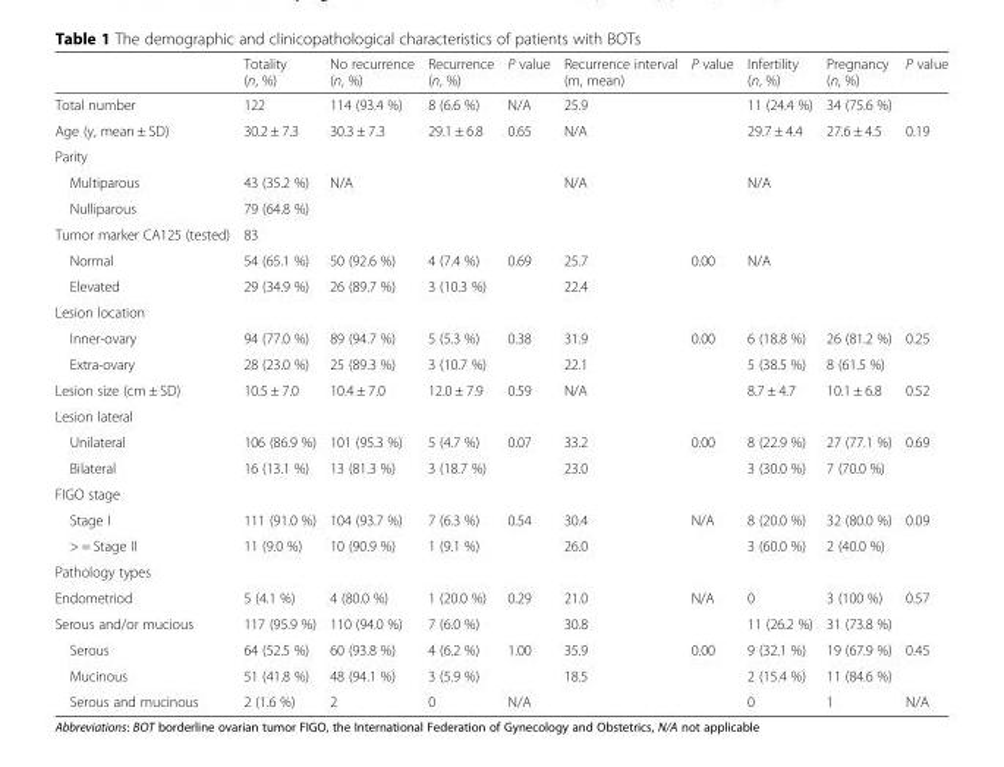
<table><thead><tr><td></td><td>Totality (n, %)</td><td>No recurrence (n, %)</td><td>Recurrence (n, %)</td><td>P value</td><td>Recurrence interval (m, mean)</td><td>P value</td><td>Infertility (n, %)</td><td>Pregnancy (n, %)</td><td>P value</td></tr></thead><tbody><tr><td>Total number</td><td>122</td><td>114 (93.4 %)</td><td>8 (6.6 %)</td><td>N/A</td><td>25.9</td><td></td><td>11 (24.4 %)</td><td>34 (75.6 %)</td><td></td></tr><tr><td>Age (y, mean ± SD)</td><td>30.2 ± 7.3</td><td>30.3 ± 7.3</td><td>29.1 ± 6.8</td><td>0.65</td><td>N/A</td><td></td><td>29.7 ± 4.4</td><td>27.6 ± 4.5</td><td>0.19</td></tr><tr><td colspan="10">Parity</td></tr><tr><td>Multiparous</td><td>43 (35.2 %)</td><td rowspan="2" colspan="3">N/A</td><td rowspan="2" colspan="2">N/A</td><td rowspan="2" colspan="3">N/A</td></tr><tr><td>Nulliparous</td><td>79 (64.8 %)</td></tr><tr><td>Tumor marker CA125 (tested)</td><td>83</td><td></td><td></td><td></td><td></td><td></td><td></td><td></td><td></td></tr><tr><td>Normal</td><td>54 (65.1 %)</td><td>50 (92.6 %)</td><td>4 (7.4 %)</td><td rowspan="2">0.69</td><td>25.7</td><td rowspan="2">0.00</td><td>N/A</td><td></td><td></td></tr><tr><td>Elevated</td><td>29 (34.9 %)</td><td>26 (89.7 %)</td><td>3 (10.3 %)</td><td>22.4</td><td></td><td></td><td></td></tr><tr><td colspan="10">Lesion location</td></tr><tr><td>Inner-ovary</td><td>94 (77.0 %)</td><td>89 (94.7 %)</td><td>5 (5.3 %)</td><td rowspan="2">0.38</td><td>31.9</td><td rowspan="2">0.00</td><td>6 (18.8 %)</td><td>26 (81.2 %)</td><td rowspan="2">0.25</td></tr><tr><td>Extra-ovary</td><td>28 (23.0 %)</td><td>25 (89.3 %)</td><td>3 (10.7 %)</td><td>22.1</td><td>5 (38.5 %)</td><td>8 (61.5 %)</td></tr><tr><td>Lesion size (cm ± SD)</td><td>10.5 ± 7.0</td><td>10.4 ± 7.0</td><td>12.0 ± 7.9</td><td>0.59</td><td>N/A</td><td></td><td>8.7 ± 4.7</td><td>10.1 ± 6.8</td><td>0.52</td></tr><tr><td colspan="10">Lesion lateral</td></tr><tr><td>Unilateral</td><td>106 (86.9 %)</td><td>101 (95.3 %)</td><td>5 (4.7 %)</td><td rowspan="2">0.07</td><td>33.2</td><td rowspan="2">0.00</td><td>8 (22.9 %)</td><td>27 (77.1 %)</td><td rowspan="2">0.69</td></tr><tr><td>Bilateral</td><td>16 (13.1 %)</td><td>13 (81.3 %)</td><td>3 (18.7 %)</td><td>23.0</td><td>3 (30.0 %)</td><td>7 (70.0 %)</td></tr><tr><td colspan="10">FIGO stage</td></tr><tr><td>Stage I</td><td>111 (91.0 %)</td><td>104 (93.7 %)</td><td>7 (6.3 %)</td><td rowspan="2">0.54</td><td>30.4</td><td rowspan="2">N/A</td><td>8 (20.0 %)</td><td>32 (80.0 %)</td><td rowspan="2">0.09</td></tr><tr><td>&gt; = Stage II</td><td>11 (9.0 %)</td><td>10 (90.9 %)</td><td>1 (9.1 %)</td><td>26.0</td><td>3 (60.0 %)</td><td>2 (40.0 %)</td></tr><tr><td colspan="10">Pathology types</td></tr><tr><td>Endometriod</td><td>5 (4.1 %)</td><td>4 (80.0 %)</td><td>1 (20.0 %)</td><td>0.29</td><td>21.0</td><td>N/A</td><td>0</td><td>3 (100 %)</td><td>0.57</td></tr><tr><td>Serous and/or mucious</td><td>117 (95.9 %)</td><td>110 (94.0 %)</td><td>7 (6.0 %)</td><td></td><td>30.8</td><td></td><td>11 (26.2 %)</td><td>31 (73.8 %)</td><td></td></tr><tr><td>Serous</td><td>64 (52.5 %)</td><td>60 (93.8 %)</td><td>4 (6.2 %)</td><td rowspan="2">1.00</td><td>35.9</td><td rowspan="2">0.00</td><td>9 (32.1 %)</td><td>19 (67.9 %)</td><td rowspan="2">0.45</td></tr><tr><td>Mucinous</td><td>51 (41.8 %)</td><td>48 (94.1 %)</td><td>3 (5.9 %)</td><td>18.5</td><td>2 (15.4 %)</td><td>11 (84.6 %)</td></tr><tr><td>Serous and mucinous</td><td>2 (1.6 %)</td><td>2</td><td>0</td><td colspan="3">N/A</td><td>0</td><td>1</td><td>N/A</td></tr></tbody></table>